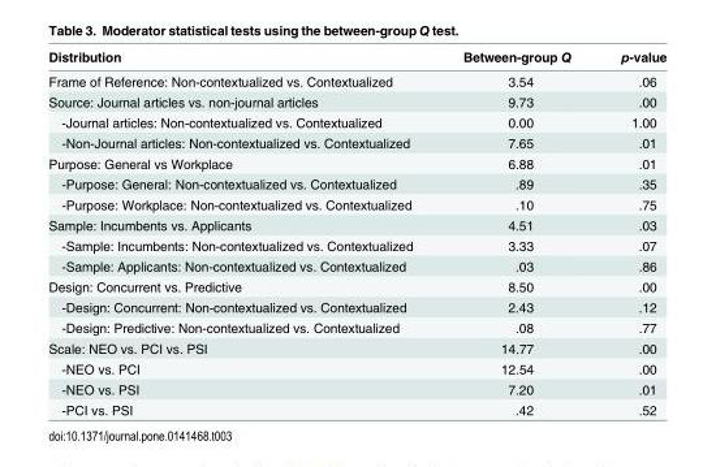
<table><thead><tr><td>Distribution</td><td>Between-group Q</td><td>p-value</td></tr></thead><tbody><tr><td>Frame of Reference: Non-contextualized vs. Contextualized</td><td>3.54</td><td>.06</td></tr><tr><td>Source: Journal articles vs. non-journal articles</td><td>9.73</td><td>.00</td></tr><tr><td>-Journal articles: Non-contextualized vs. Contextualized</td><td>0.00</td><td>1.00</td></tr><tr><td>-Non-Journal articles: Non-contextualized vs. Contextualized</td><td>7.65</td><td>.01</td></tr><tr><td>Purpose: General vs Workplace</td><td>6.88</td><td>.01</td></tr><tr><td>-Purpose: General: Non-contextualized vs. Contextualized</td><td>.89</td><td>.35</td></tr><tr><td>-Purpose: Workplace: Non-contextualized vs. Contextualized</td><td>.10</td><td>.75</td></tr><tr><td>Sample: Incumbents vs. Applicants</td><td>4.51</td><td>.03</td></tr><tr><td>-Sample: Incumbents: Non-contextualized vs. Contextualized</td><td>3.33</td><td>.07</td></tr><tr><td>-Sample: Applicants: Non-contextualized vs. Contextualized</td><td>.03</td><td>.86</td></tr><tr><td>Design: Concurrent vs. Predictive</td><td>8.50</td><td>.00</td></tr><tr><td>-Design: Concurrent: Non-contextualized vs. Contextualized</td><td>2.43</td><td>.12</td></tr><tr><td>-Design: Predictive: Non-contextualized vs. Contextualized</td><td>.08</td><td>.77</td></tr><tr><td>Scale: NEO vs. PCI vs. PSI</td><td>14.77</td><td>.00</td></tr><tr><td>-NEO vs. PCI</td><td>12.54</td><td>.00</td></tr><tr><td>-NEO vs. PSI</td><td>7.20</td><td>.01</td></tr><tr><td>-PCI vs. PSI</td><td>.42</td><td>.52</td></tr></tbody></table>